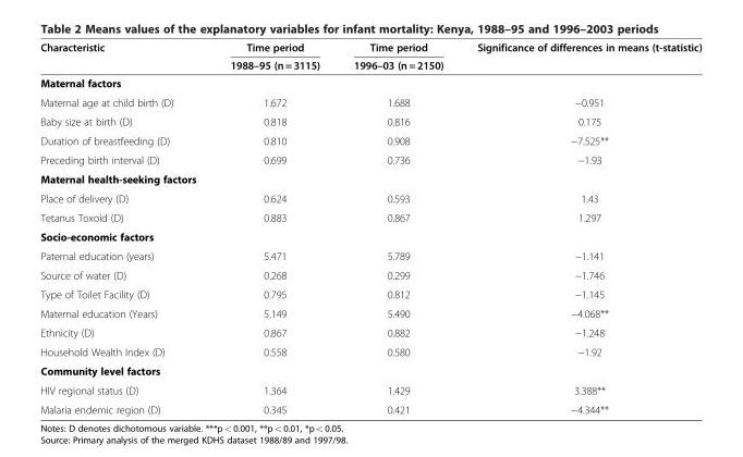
<table><thead><tr><td>Characteristic</td><td>Time period</td><td>Time period</td><td>Significance of differences in means (t-statistic)</td></tr></thead><tbody><tr><td></td><td>1988–95 (n = 3115)</td><td>1996–03 (n = 2150)</td><td></td></tr><tr><td colspan="4">Maternal factors</td></tr><tr><td>Maternal age at child birth (D)</td><td>1.672</td><td>1.688</td><td>−0.951</td></tr><tr><td>Baby size at birth (D)</td><td>0.818</td><td>0.816</td><td>0.175</td></tr><tr><td>Duration of breastfeeding (D)</td><td>0.810</td><td>0.908</td><td>−7.525**</td></tr><tr><td>Preceding birth interval (D)</td><td>0.699</td><td>0.736</td><td>−1.93</td></tr><tr><td colspan="4">Maternal health-seeking factors</td></tr><tr><td>Place of delivery (D)</td><td>0.624</td><td>0.593</td><td>1.43</td></tr><tr><td>Tetanus Toxoid (D)</td><td>0.883</td><td>0.867</td><td>1.297</td></tr><tr><td colspan="4">Socio-economic factors</td></tr><tr><td>Paternal education (years)</td><td>5.471</td><td>5.789</td><td>−1.141</td></tr><tr><td>Source of water (D)</td><td>0.268</td><td>0.299</td><td>−1.746</td></tr><tr><td>Type of Toilet Facility (D)</td><td>0.795</td><td>0.812</td><td>−1.145</td></tr><tr><td>Maternal education (Years)</td><td>5.149</td><td>5.490</td><td>−4.068**</td></tr><tr><td>Ethnicity (D)</td><td>0.867</td><td>0.882</td><td>−1.248</td></tr><tr><td>Household Wealth Index (D)</td><td>0.558</td><td>0.580</td><td>−1.92</td></tr><tr><td colspan="4">Community level factors</td></tr><tr><td>HIV regional status (D)</td><td>1.364</td><td>1.429</td><td>3.388**</td></tr><tr><td>Malaria endemic region (D)</td><td>0.345</td><td>0.421</td><td>−4.344**</td></tr></tbody></table>